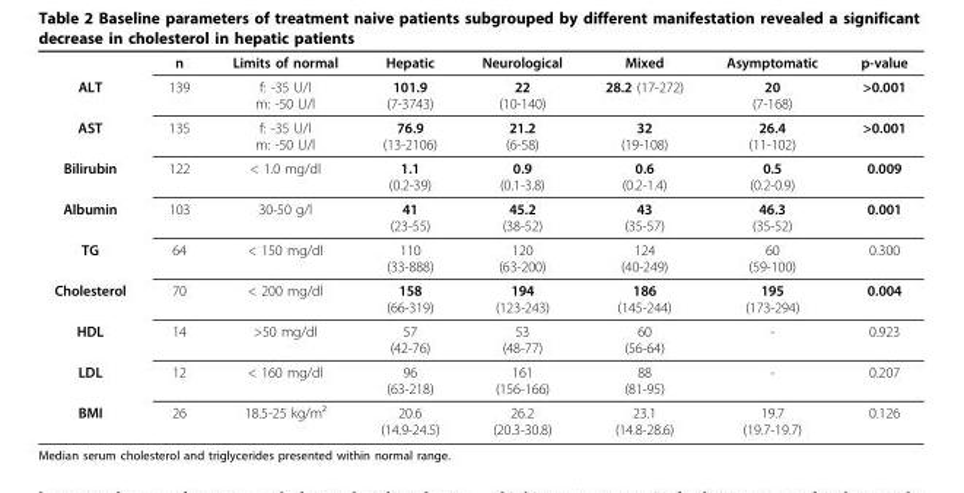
<table><thead><tr><td></td><td>n</td><td>Limits of normal</td><td>Hepatic</td><td>Neurological</td><td>Mixed</td><td>Asymptomatic</td><td>p-value</td></tr></thead><tbody><tr><td>ALT</td><td>139</td><td>f: -35 U/l m: -50 U/l</td><td>101.9 (7-3743)</td><td>22 (10-140)</td><td>28.2 (17-272)</td><td>20 (7-168)</td><td>&gt;0.001</td></tr><tr><td>AST</td><td>135</td><td>f: -35 U/l m: -50 U/l</td><td>76.9 (13-2106)</td><td>21.2 (6-58)</td><td>32 (19-108)</td><td>26.4 (11-102)</td><td>&gt;0.001</td></tr><tr><td>Bilirubin</td><td>122</td><td>&lt; 1.0 mg/dl</td><td>1.1 (0.2-39)</td><td>0.9 (0.1-3.8)</td><td>0.6 (0.2-1.4)</td><td>0.5 (0.2-0.9)</td><td>0.009</td></tr><tr><td>Albumin</td><td>103</td><td>30-50 g/l</td><td>41 (23-55)</td><td>45.2 (38-52)</td><td>43 (35-57)</td><td>46.3 (35-52)</td><td>0.001</td></tr><tr><td>TG</td><td>64</td><td>&lt; 150 mg/dl</td><td>110 (33-888)</td><td>120 (63-200)</td><td>124 (40-249)</td><td>60 (59-100)</td><td>0.300</td></tr><tr><td>Cholesterol</td><td>70</td><td>&lt; 200 mg/dl</td><td>158 (66-319)</td><td>194 (123-243)</td><td>186 (145-244)</td><td>195 (173-294)</td><td>0.004</td></tr><tr><td>HDL</td><td>14</td><td>&gt;50 mg/dl</td><td>57 (42-76)</td><td>53 (48-77)</td><td>60 (56-64)</td><td>-</td><td>0.923</td></tr><tr><td>LDL</td><td>12</td><td>&lt; 160 mg/dl</td><td>96 (63-218)</td><td>161 (156-166)</td><td>88 (81-95)</td><td>-</td><td>0.207</td></tr><tr><td>BMI</td><td>26</td><td>18.5-25 kg/m²</td><td>20.6 (14.9-24.5)</td><td>26.2 (20.3-30.8)</td><td>23.1 (14.8-28.6)</td><td>19.7 (19.7-19.7)</td><td>0.126</td></tr></tbody></table>